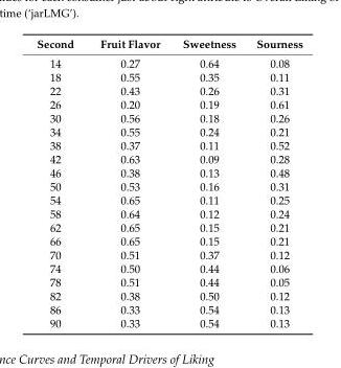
<table><thead><tr><td>Second</td><td>Fruit Flavor</td><td>Sweetness</td><td>Sourness</td></tr></thead><tbody><tr><td>14</td><td>0.27</td><td>0.64</td><td>0.08</td></tr><tr><td>18</td><td>0.55</td><td>0.35</td><td>0.11</td></tr><tr><td>22</td><td>0.43</td><td>0.26</td><td>0.31</td></tr><tr><td>26</td><td>0.20</td><td>0.19</td><td>0.61</td></tr><tr><td>30</td><td>0.56</td><td>0.18</td><td>0.26</td></tr><tr><td>34</td><td>0.55</td><td>0.24</td><td>0.21</td></tr><tr><td>38</td><td>0.37</td><td>0.11</td><td>0.52</td></tr><tr><td>42</td><td>0.63</td><td>0.09</td><td>0.28</td></tr><tr><td>46</td><td>0.38</td><td>0.13</td><td>0.48</td></tr><tr><td>50</td><td>0.53</td><td>0.16</td><td>0.31</td></tr><tr><td>54</td><td>0.65</td><td>0.11</td><td>0.25</td></tr><tr><td>58</td><td>0.64</td><td>0.12</td><td>0.24</td></tr><tr><td>62</td><td>0.65</td><td>0.15</td><td>0.21</td></tr><tr><td>66</td><td>0.65</td><td>0.15</td><td>0.21</td></tr><tr><td>70</td><td>0.51</td><td>0.37</td><td>0.12</td></tr><tr><td>74</td><td>0.50</td><td>0.44</td><td>0.06</td></tr><tr><td>78</td><td>0.51</td><td>0.44</td><td>0.05</td></tr><tr><td>82</td><td>0.38</td><td>0.50</td><td>0.12</td></tr><tr><td>86</td><td>0.33</td><td>0.54</td><td>0.13</td></tr><tr><td>90</td><td>0.33</td><td>0.54</td><td>0.13</td></tr></tbody></table>